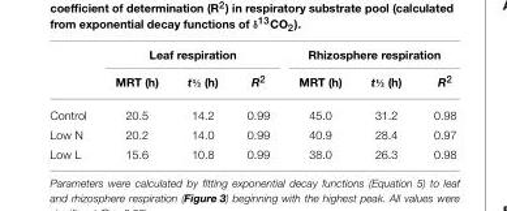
<table><thead><tr><td rowspan="2"></td><td colspan="3">Leaf respiration</td><td colspan="3">Rhizosphere respiration</td></tr><tr><td>MRT (h)</td><td>t½ (h)</td><td>R<sup>2</sup></td><td>MRT (h)</td><td>t½ (h)</td><td>R<sup>2</sup></td></tr></thead><tbody><tr><td>Control</td><td>20.5</td><td>14.2</td><td>0.99</td><td>45.0</td><td>31.2</td><td>0.98</td></tr><tr><td>Low N</td><td>20.2</td><td>14.0</td><td>0.99</td><td>40.9</td><td>28.4</td><td>0.97</td></tr><tr><td>Low L</td><td>15.6</td><td>10.8</td><td>0.99</td><td>38.0</td><td>26.3</td><td>0.98</td></tr></tbody></table>